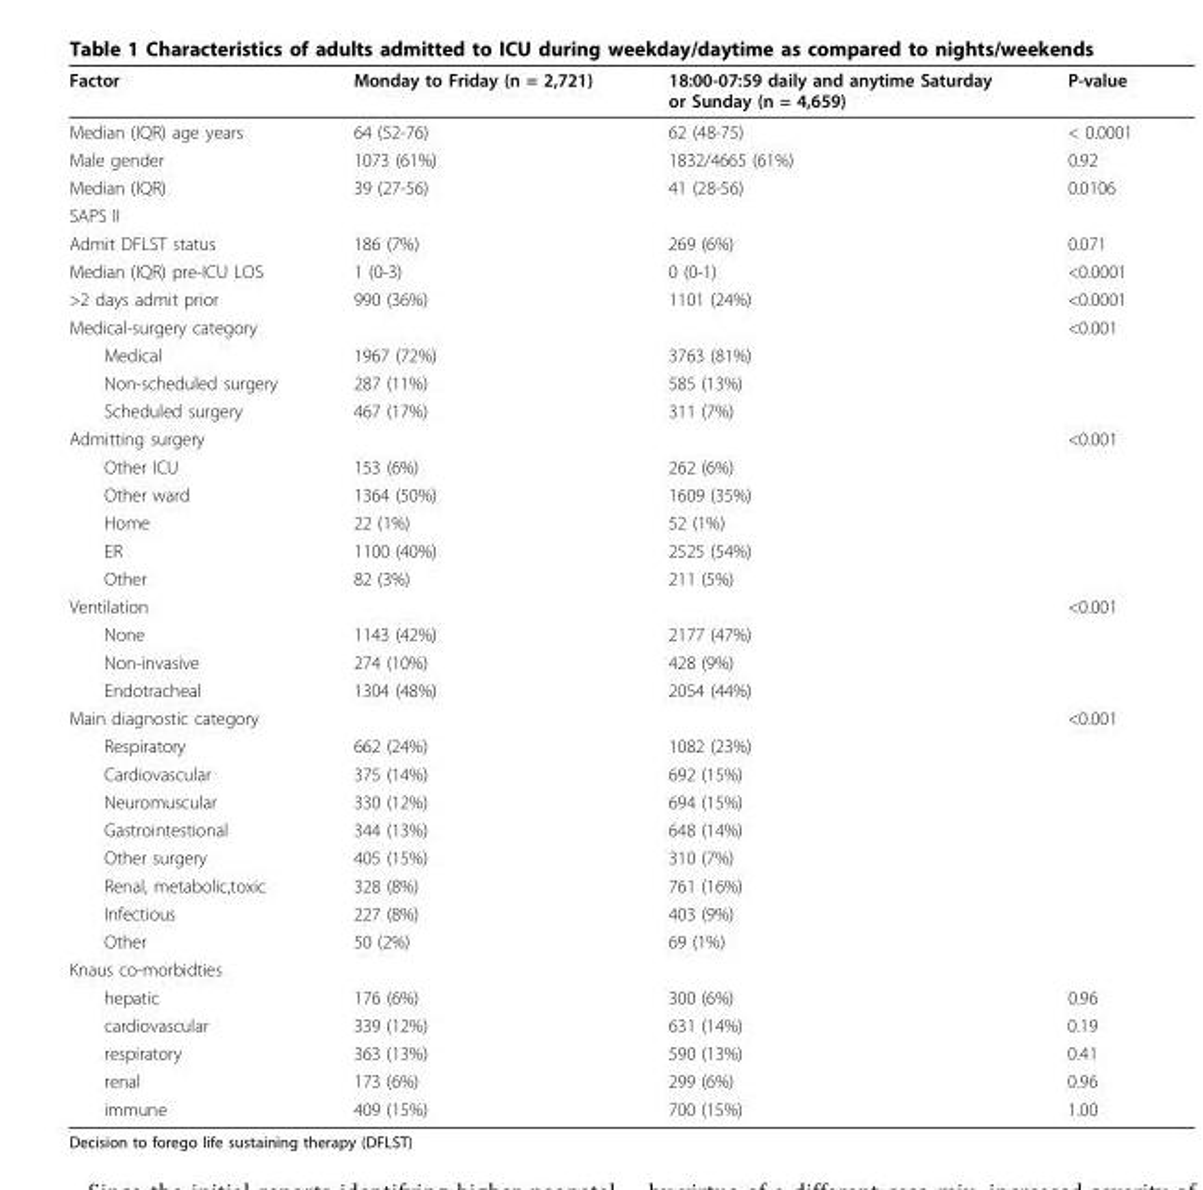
<table><thead><tr><td>Factor</td><td>Monday to Friday (n = 2,721)</td><td>18:00-07:59 daily and anytime Saturday or Sunday (n = 4,659)</td><td>P-value</td></tr></thead><tbody><tr><td>Median (IQR) age years</td><td>64 (52-76)</td><td>62 (48-75)</td><td>&lt; 0.0001</td></tr><tr><td>Male gender</td><td>1073 (61%)</td><td>1832/4665 (61%)</td><td>0.92</td></tr><tr><td>Median (IQR)</td><td>39 (27-56)</td><td>41 (28-56)</td><td>0.0106</td></tr><tr><td colspan="4">SAPS II</td></tr><tr><td>Admit DFLST status</td><td>186 (7%)</td><td>269 (6%)</td><td>0.071</td></tr><tr><td>Median (IQR) pre-ICU LOS</td><td>1 (0-3)</td><td>0 (0-1)</td><td>&lt;0.0001</td></tr><tr><td>&gt;2 days admit prior</td><td>990 (36%)</td><td>1101 (24%)</td><td>&lt;0.0001</td></tr><tr><td>Medical-surgery category</td><td></td><td></td><td>&lt;0.001</td></tr><tr><td>Medical</td><td>1967 (72%)</td><td>3763 (81%)</td><td></td></tr><tr><td>Non-scheduled surgery</td><td>287 (11%)</td><td>585 (13%)</td><td></td></tr><tr><td>Scheduled surgery</td><td>467 (17%)</td><td>311 (7%)</td><td></td></tr><tr><td>Admitting surgery</td><td></td><td></td><td>&lt;0.001</td></tr><tr><td>Other ICU</td><td>153 (6%)</td><td>262 (6%)</td><td></td></tr><tr><td>Other ward</td><td>1364 (50%)</td><td>1609 (35%)</td><td></td></tr><tr><td>Home</td><td>22 (1%)</td><td>52 (1%)</td><td></td></tr><tr><td>ER</td><td>1100 (40%)</td><td>2525 (54%)</td><td></td></tr><tr><td>Other</td><td>82 (3%)</td><td>211 (5%)</td><td></td></tr><tr><td>Ventilation</td><td></td><td></td><td>&lt;0.001</td></tr><tr><td>None</td><td>1143 (42%)</td><td>2177 (47%)</td><td></td></tr><tr><td>Non-invasive</td><td>274 (10%)</td><td>428 (9%)</td><td></td></tr><tr><td>Endotracheal</td><td>1304 (48%)</td><td>2054 (44%)</td><td></td></tr><tr><td>Main diagnostic category</td><td></td><td></td><td>&lt;0.001</td></tr><tr><td>Respiratory</td><td>662 (24%)</td><td>1082 (23%)</td><td></td></tr><tr><td>Cardiovascular</td><td>375 (14%)</td><td>692 (15%)</td><td></td></tr><tr><td>Neuromuscular</td><td>330 (12%)</td><td>694 (15%)</td><td></td></tr><tr><td>Gastrointestional</td><td>344 (13%)</td><td>648 (14%)</td><td></td></tr><tr><td>Other surgery</td><td>405 (15%)</td><td>310 (7%)</td><td></td></tr><tr><td>Renal, metabolic,toxic</td><td>328 (8%)</td><td>761 (16%)</td><td></td></tr><tr><td>Infectious</td><td>227 (8%)</td><td>403 (9%)</td><td></td></tr><tr><td>Other</td><td>50 (2%)</td><td>69 (1%)</td><td></td></tr><tr><td colspan="4">Knaus co-morbidties</td></tr><tr><td>hepatic</td><td>176 (6%)</td><td>300 (6%)</td><td>0.96</td></tr><tr><td>cardiovascular</td><td>339 (12%)</td><td>631 (14%)</td><td>0.19</td></tr><tr><td>respiratory</td><td>363 (13%)</td><td>590 (13%)</td><td>0.41</td></tr><tr><td>renal</td><td>173 (6%)</td><td>299 (6%)</td><td>0.96</td></tr><tr><td>immune</td><td>409 (15%)</td><td>700 (15%)</td><td>1.00</td></tr></tbody></table>